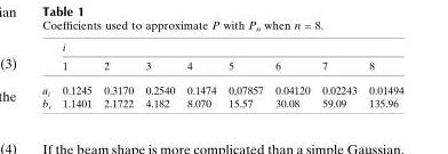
<table><thead><tr><td rowspan="2"></td><td colspan="8">i</td></tr><tr><td>1</td><td>2</td><td>3</td><td>4</td><td>5</td><td>6</td><td>7</td><td>8</td></tr></thead><tbody><tr><td>a<sub>i</sub></td><td>0.1245</td><td>0.3170</td><td>0.2540</td><td>0.1474</td><td>0.07857</td><td>0.04120</td><td>0.02243</td><td>0.01494</td></tr><tr><td>b<sub>i</sub></td><td>1.1401</td><td>2.1722</td><td>4.182</td><td>8.070</td><td>15.57</td><td>30.08</td><td>59.09</td><td>135.96</td></tr></tbody></table>